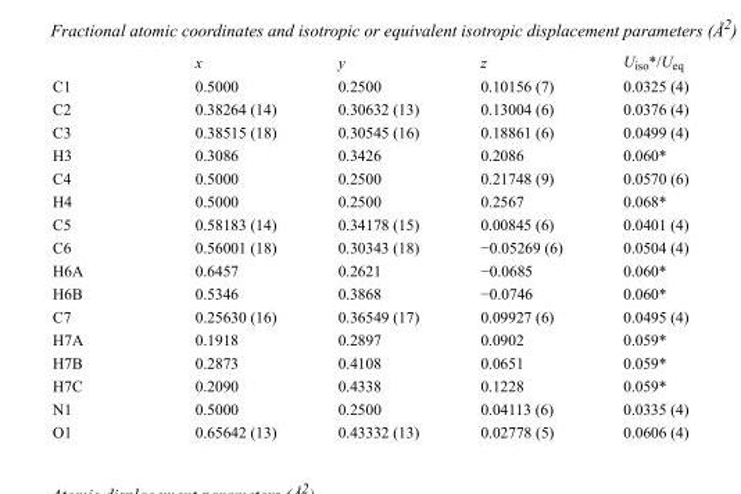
<table><thead><tr><td></td><td>x</td><td>y</td><td>z</td><td>U<sub>iso</sub>*/U<sub>eq</sub></td></tr></thead><tbody><tr><td>C1</td><td>0.5000</td><td>0.2500</td><td>0.10156 (7)</td><td>0.0325 (4)</td></tr><tr><td>C2</td><td>0.38264 (14)</td><td>0.30632 (13)</td><td>0.13004 (6)</td><td>0.0376 (4)</td></tr><tr><td>C3</td><td>0.38515 (18)</td><td>0.30545 (16)</td><td>0.18861 (6)</td><td>0.0499 (4)</td></tr><tr><td>H3</td><td>0.3086</td><td>0.3426</td><td>0.2086</td><td>0.060*</td></tr><tr><td>C4</td><td>0.5000</td><td>0.2500</td><td>0.21748 (9)</td><td>0.0570 (6)</td></tr><tr><td>H4</td><td>0.5000</td><td>0.2500</td><td>0.2567</td><td>0.068*</td></tr><tr><td>C5</td><td>0.58183 (14)</td><td>0.34178 (15)</td><td>0.00845 (6)</td><td>0.0401 (4)</td></tr><tr><td>C6</td><td>0.56001 (18)</td><td>0.30343 (18)</td><td>−0.05269 (6)</td><td>0.0504 (4)</td></tr><tr><td>H6A</td><td>0.6457</td><td>0.2621</td><td>−0.0685</td><td>0.060*</td></tr><tr><td>H6B</td><td>0.5346</td><td>0.3868</td><td>−0.0746</td><td>0.060*</td></tr><tr><td>C7</td><td>0.25630 (16)</td><td>0.36549 (17)</td><td>0.09927 (6)</td><td>0.0495 (4)</td></tr><tr><td>H7A</td><td>0.1918</td><td>0.2897</td><td>0.0902</td><td>0.059*</td></tr><tr><td>H7B</td><td>0.2873</td><td>0.4108</td><td>0.0651</td><td>0.059*</td></tr><tr><td>H7C</td><td>0.2090</td><td>0.4338</td><td>0.1228</td><td>0.059*</td></tr><tr><td>N1</td><td>0.5000</td><td>0.2500</td><td>0.04113 (6)</td><td>0.0335 (4)</td></tr><tr><td>O1</td><td>0.65642 (13)</td><td>0.43332 (13)</td><td>0.02778 (5)</td><td>0.0606 (4)</td></tr></tbody></table>